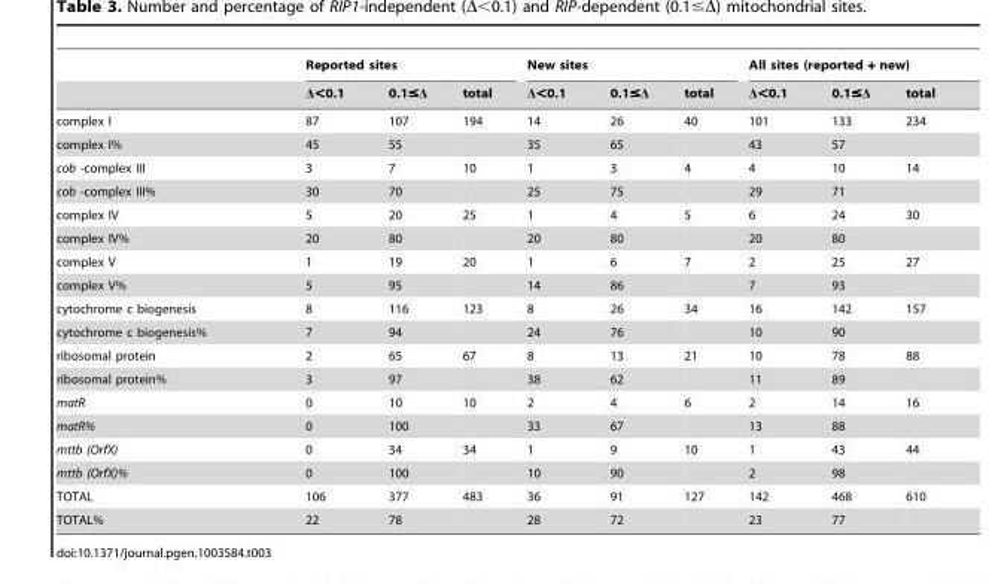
<table><thead><tr><td rowspan="2"></td><td colspan="3">Reported sites</td><td colspan="3">New sites</td><td colspan="3">All sites (reported + new)</td></tr><tr><td>Δ&lt;0.1</td><td>0.1≤Δ</td><td>total</td><td>Δ&lt;0.1</td><td>0.1≤Δ</td><td>total</td><td>Δ&lt;0.1</td><td>0.1≤Δ</td><td>total</td></tr></thead><tbody><tr><td>complex I</td><td>87</td><td>107</td><td>194</td><td>14</td><td>26</td><td>40</td><td>101</td><td>133</td><td>234</td></tr><tr><td>complex I%</td><td>45</td><td>55</td><td></td><td>35</td><td>65</td><td></td><td>43</td><td>57</td><td></td></tr><tr><td>cob -complex III</td><td>3</td><td>7</td><td>10</td><td>1</td><td>3</td><td>4</td><td>4</td><td>10</td><td>14</td></tr><tr><td>cob -complex III%</td><td>30</td><td>70</td><td></td><td>25</td><td>75</td><td></td><td>29</td><td>71</td><td></td></tr><tr><td>complex IV</td><td>5</td><td>20</td><td>25</td><td>1</td><td>4</td><td>5</td><td>6</td><td>24</td><td>30</td></tr><tr><td>complex IV%</td><td>20</td><td>80</td><td></td><td>20</td><td>80</td><td></td><td>20</td><td>80</td><td></td></tr><tr><td>complex V</td><td>1</td><td>19</td><td>20</td><td>1</td><td>6</td><td>7</td><td>2</td><td>25</td><td>27</td></tr><tr><td>complex V%</td><td>5</td><td>95</td><td></td><td>14</td><td>86</td><td></td><td>7</td><td>93</td><td></td></tr><tr><td>cytochrome c biogenesis</td><td>8</td><td>116</td><td>123</td><td>8</td><td>26</td><td>34</td><td>16</td><td>142</td><td>157</td></tr><tr><td>cytochrome c biogenesis%</td><td>7</td><td>94</td><td></td><td>24</td><td>76</td><td></td><td>10</td><td>90</td><td></td></tr><tr><td>ribosomal protein</td><td>2</td><td>65</td><td>67</td><td>8</td><td>13</td><td>21</td><td>10</td><td>78</td><td>88</td></tr><tr><td>ribosomal protein%</td><td>3</td><td>97</td><td></td><td>38</td><td>62</td><td></td><td>11</td><td>89</td><td></td></tr><tr><td>matR</td><td>0</td><td>10</td><td>10</td><td>2</td><td>4</td><td>6</td><td>2</td><td>14</td><td>16</td></tr><tr><td>matR%</td><td>0</td><td>100</td><td></td><td>33</td><td>67</td><td></td><td>13</td><td>88</td><td></td></tr><tr><td>mttb (OrfX)</td><td>0</td><td>34</td><td>34</td><td>1</td><td>9</td><td>10</td><td>1</td><td>43</td><td>44</td></tr><tr><td>mttb (OrfX)%</td><td>0</td><td>100</td><td></td><td>10</td><td>90</td><td></td><td>2</td><td>98</td><td></td></tr><tr><td>TOTAL</td><td>106</td><td>377</td><td>483</td><td>36</td><td>91</td><td>127</td><td>142</td><td>468</td><td>610</td></tr><tr><td>TOTAL%</td><td>22</td><td>78</td><td></td><td>28</td><td>72</td><td></td><td>23</td><td>77</td><td></td></tr></tbody></table>